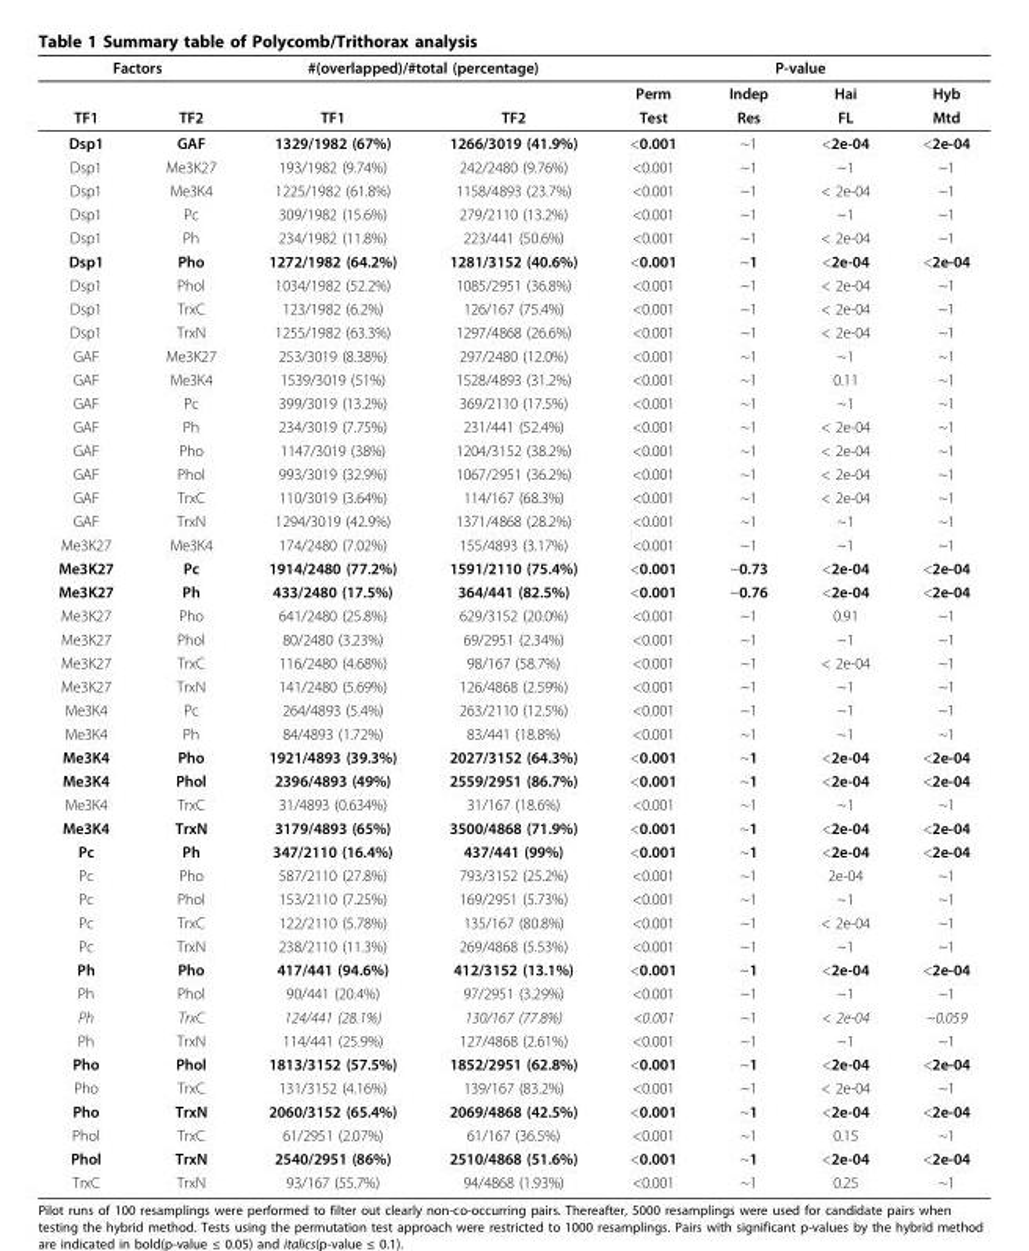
<table><thead><tr><td colspan="2">Factors</td><td colspan="2">#(overlapped)/#total (percentage)</td><td colspan="4">P-value</td></tr><tr><td></td><td></td><td></td><td></td><td>Perm</td><td>Indep</td><td>Hai</td><td>Hyb</td></tr></thead><tbody><tr><td>TF1</td><td>TF2</td><td>TF1</td><td>TF2</td><td>Test</td><td>Res</td><td>FL</td><td>Mtd</td></tr><tr><td>Dsp1</td><td>GAF</td><td>1329/1982 (67%)</td><td>1266/3019 (41.9%)</td><td>&lt;0.001</td><td>~1</td><td>&lt;2e-04</td><td>&lt;2e-04</td></tr><tr><td>Dsp1</td><td>Me3K27</td><td>193/1982 (9.74%)</td><td>242/2480 (9.76%)</td><td>&lt;0.001</td><td>~1</td><td>~1</td><td>~1</td></tr><tr><td>Dsp1</td><td>Me3K4</td><td>1225/1982 (61.8%)</td><td>1158/4893 (23.7%)</td><td>&lt;0.001</td><td>~1</td><td>&lt; 2e-04</td><td>~1</td></tr><tr><td>Dsp1</td><td>Pc</td><td>309/1982 (15.6%)</td><td>279/2110 (13.2%)</td><td>&lt;0.001</td><td>~1</td><td>~1</td><td>~1</td></tr><tr><td>Dsp1</td><td>Ph</td><td>234/1982 (11.8%)</td><td>223/441 (50.6%)</td><td>&lt;0.001</td><td>~1</td><td>&lt; 2e-04</td><td>~1</td></tr><tr><td>Dsp1</td><td>Pho</td><td>1272/1982 (64.2%)</td><td>1281/3152 (40.6%)</td><td>&lt;0.001</td><td>~1</td><td>&lt;2e-04</td><td>&lt;2e-04</td></tr><tr><td>Dsp1</td><td>Phol</td><td>1034/1982 (52.2%)</td><td>1085/2951 (36.8%)</td><td>&lt;0.001</td><td>~1</td><td>&lt; 2e-04</td><td>~1</td></tr><tr><td>Dsp1</td><td>TrxC</td><td>123/1982 (6.2%)</td><td>126/167 (75.4%)</td><td>&lt;0.001</td><td>~1</td><td>&lt; 2e-04</td><td>~1</td></tr><tr><td>Dsp1</td><td>TrxN</td><td>1255/1982 (63.3%)</td><td>1297/4868 (26.6%)</td><td>&lt;0.001</td><td>~1</td><td>&lt; 2e-04</td><td>~1</td></tr><tr><td>GAF</td><td>Me3K27</td><td>253/3019 (8.38%)</td><td>297/2480 (12.0%)</td><td>&lt;0.001</td><td>~1</td><td>~1</td><td>~1</td></tr><tr><td>GAF</td><td>Me3K4</td><td>1539/3019 (51%)</td><td>1528/4893 (31.2%)</td><td>&lt;0.001</td><td>~1</td><td>0.11</td><td>~1</td></tr><tr><td>GAF</td><td>Pc</td><td>399/3019 (13.2%)</td><td>369/2110 (17.5%)</td><td>&lt;0.001</td><td>~1</td><td>~1</td><td>~1</td></tr><tr><td>GAF</td><td>Ph</td><td>234/3019 (7.75%)</td><td>231/441 (52.4%)</td><td>&lt;0.001</td><td>~1</td><td>&lt; 2e-04</td><td>~1</td></tr><tr><td>GAF</td><td>Pho</td><td>1147/3019 (38%)</td><td>1204/3152 (38.2%)</td><td>&lt;0.001</td><td>~1</td><td>&lt; 2e-04</td><td>~1</td></tr><tr><td>GAF</td><td>Phol</td><td>993/3019 (32.9%)</td><td>1067/2951 (36.2%)</td><td>&lt;0.001</td><td>~1</td><td>&lt; 2e-04</td><td>~1</td></tr><tr><td>GAF</td><td>TrxC</td><td>110/3019 (3.64%)</td><td>114/167 (68.3%)</td><td>&lt;0.001</td><td>~1</td><td>&lt; 2e-04</td><td>~1</td></tr><tr><td>GAF</td><td>TrxN</td><td>1294/3019 (42.9%)</td><td>1371/4868 (28.2%)</td><td>&lt;0.001</td><td>~1</td><td>~1</td><td>~1</td></tr><tr><td>Me3K27</td><td>Me3K4</td><td>174/2480 (7.02%)</td><td>155/4893 (3.17%)</td><td>&lt;0.001</td><td>~1</td><td>~1</td><td>~1</td></tr><tr><td>Me3K27</td><td>Pc</td><td>1914/2480 (77.2%)</td><td>1591/2110 (75.4%)</td><td>&lt;0.001</td><td>~0.73</td><td>&lt;2e-04</td><td>&lt;2e-04</td></tr><tr><td>Me3K27</td><td>Ph</td><td>433/2480 (17.5%)</td><td>364/441 (82.5%)</td><td>&lt;0.001</td><td>~0.76</td><td>&lt;2e-04</td><td>&lt;2e-04</td></tr><tr><td>Me3K27</td><td>Pho</td><td>641/2480 (25.8%)</td><td>629/3152 (20.0%)</td><td>&lt;0.001</td><td>~1</td><td>0.91</td><td>~1</td></tr><tr><td>Me3K27</td><td>Phol</td><td>80/2480 (3.23%)</td><td>69/2951 (2.34%)</td><td>&lt;0.001</td><td>~1</td><td>~1</td><td>~1</td></tr><tr><td>Me3K27</td><td>TrxC</td><td>116/2480 (4.68%)</td><td>98/167 (58.7%)</td><td>&lt;0.001</td><td>~1</td><td>&lt; 2e-04</td><td>~1</td></tr><tr><td>Me3K27</td><td>TrxN</td><td>141/2480 (5.69%)</td><td>126/4868 (2.59%)</td><td>&lt;0.001</td><td>~1</td><td>~1</td><td>~1</td></tr><tr><td>Me3K4</td><td>Pc</td><td>264/4893 (5.4%)</td><td>263/2110 (12.5%)</td><td>&lt;0.001</td><td>~1</td><td>~1</td><td>~1</td></tr><tr><td>Me3K4</td><td>Ph</td><td>84/4893 (1.72%)</td><td>83/441 (18.8%)</td><td>&lt;0.001</td><td>~1</td><td>~1</td><td>~1</td></tr><tr><td>Me3K4</td><td>Pho</td><td>1921/4893 (39.3%)</td><td>2027/3152 (64.3%)</td><td>&lt;0.001</td><td>~1</td><td>&lt;2e-04</td><td>&lt;2e-04</td></tr><tr><td>Me3K4</td><td>Phol</td><td>2396/4893 (49%)</td><td>2559/2951 (86.7%)</td><td>&lt;0.001</td><td>~1</td><td>&lt;2e-04</td><td>&lt;2e-04</td></tr><tr><td>Me3K4</td><td>TrxC</td><td>31/4893 (0.634%)</td><td>31/167 (18.6%)</td><td>&lt;0.001</td><td>~1</td><td>~1</td><td>~1</td></tr><tr><td>Me3K4</td><td>TrxN</td><td>3179/4893 (65%)</td><td>3500/4868 (71.9%)</td><td>&lt;0.001</td><td>~1</td><td>&lt;2e-04</td><td>&lt;2e-04</td></tr><tr><td>Pc</td><td>Ph</td><td>347/2110 (16.4%)</td><td>437/441 (99%)</td><td>&lt;0.001</td><td>~1</td><td>&lt;2e-04</td><td>&lt;2e-04</td></tr><tr><td>Pc</td><td>Pho</td><td>587/2110 (27.8%)</td><td>793/3152 (25.2%)</td><td>&lt;0.001</td><td>~1</td><td>2e-04</td><td>~1</td></tr><tr><td>Pc</td><td>Phol</td><td>153/2110 (7.25%)</td><td>169/2951 (5.73%)</td><td>&lt;0.001</td><td>~1</td><td>~1</td><td>~1</td></tr><tr><td>Pc</td><td>TrxC</td><td>122/2110 (5.78%)</td><td>135/167 (80.8%)</td><td>&lt;0.001</td><td>~1</td><td>&lt; 2e-04</td><td>~1</td></tr><tr><td>Pc</td><td>TrxN</td><td>238/2110 (11.3%)</td><td>269/4868 (5.53%)</td><td>&lt;0.001</td><td>~1</td><td>~1</td><td>~1</td></tr><tr><td>Ph</td><td>Pho</td><td>417/441 (94.6%)</td><td>412/3152 (13.1%)</td><td>&lt;0.001</td><td>~1</td><td>&lt;2e-04</td><td>&lt;2e-04</td></tr><tr><td>Ph</td><td>Phol</td><td>90/441 (20.4%)</td><td>97/2951 (3.29%)</td><td>&lt;0.001</td><td>~1</td><td>~1</td><td>~1</td></tr><tr><td>Ph</td><td>TrxC</td><td>124/441 (28.1%)</td><td>130/167 (77.8%)</td><td>&lt;0.001</td><td>~1</td><td>&lt; 2e-04</td><td>~0.059</td></tr><tr><td>Ph</td><td>TrxN</td><td>114/441 (25.9%)</td><td>127/4868 (2.61%)</td><td>&lt;0.001</td><td>~1</td><td>~1</td><td>~1</td></tr><tr><td>Pho</td><td>Phol</td><td>1813/3152 (57.5%)</td><td>1852/2951 (62.8%)</td><td>&lt;0.001</td><td>~1</td><td>&lt;2e-04</td><td>&lt;2e-04</td></tr><tr><td>Pho</td><td>TrxC</td><td>131/3152 (4.16%)</td><td>139/167 (83.2%)</td><td>&lt;0.001</td><td>~1</td><td>&lt; 2e-04</td><td>~1</td></tr><tr><td>Pho</td><td>TrxN</td><td>2060/3152 (65.4%)</td><td>2069/4868 (42.5%)</td><td>&lt;0.001</td><td>~1</td><td>&lt;2e-04</td><td>&lt;2e-04</td></tr><tr><td>Phol</td><td>TrxC</td><td>61/2951 (2.07%)</td><td>61/167 (36.5%)</td><td>&lt;0.001</td><td>~1</td><td>0.15</td><td>~1</td></tr><tr><td>Phol</td><td>TrxN</td><td>2540/2951 (86%)</td><td>2510/4868 (51.6%)</td><td>&lt;0.001</td><td>~1</td><td>&lt;2e-04</td><td>&lt;2e-04</td></tr><tr><td>TrxC</td><td>TrxN</td><td>93/167 (55.7%)</td><td>94/4868 (1.93%)</td><td>&lt;0.001</td><td>~1</td><td>0.25</td><td>~1</td></tr></tbody></table>